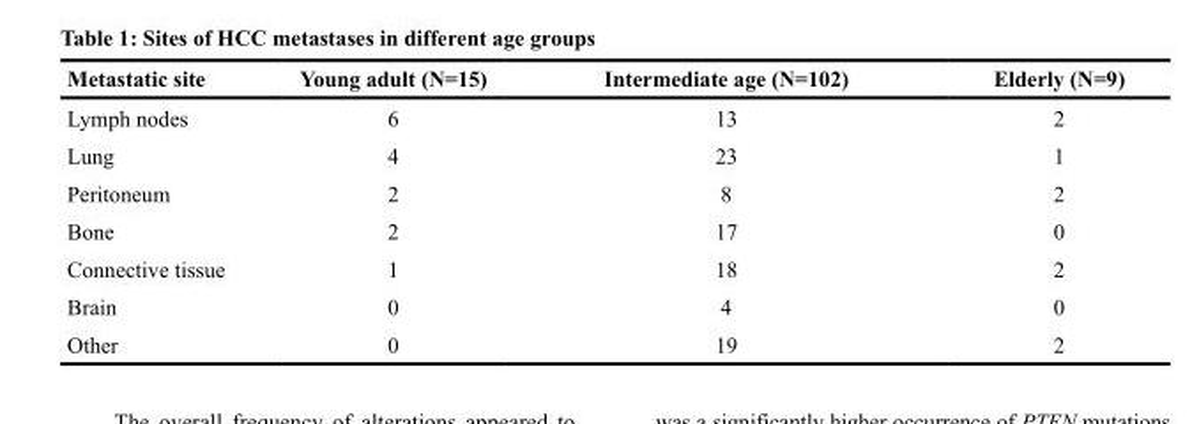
<table><thead><tr><td>Metastatic site</td><td>Young adult (N=15)</td><td>Intermediate age (N=102)</td><td>Elderly (N=9)</td></tr></thead><tbody><tr><td>Lymph nodes</td><td>6</td><td>13</td><td>2</td></tr><tr><td>Lung</td><td>4</td><td>23</td><td>1</td></tr><tr><td>Peritoneum</td><td>2</td><td>8</td><td>2</td></tr><tr><td>Bone</td><td>2</td><td>17</td><td>0</td></tr><tr><td>Connective tissue</td><td>1</td><td>18</td><td>2</td></tr><tr><td>Brain</td><td>0</td><td>4</td><td>0</td></tr><tr><td>Other</td><td>0</td><td>19</td><td>2</td></tr></tbody></table>